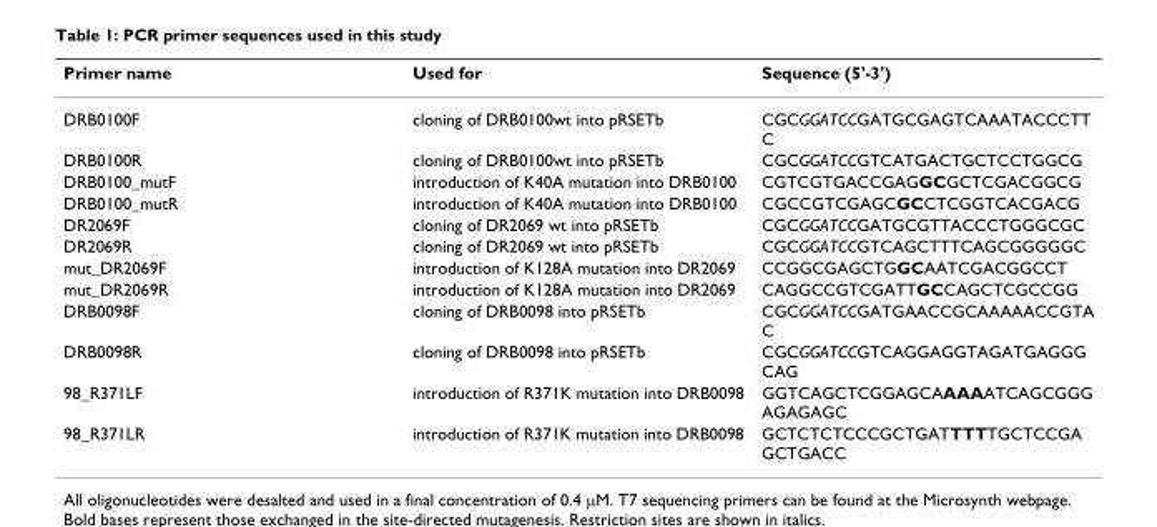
<table><thead><tr><td>Primer name</td><td>Used for</td><td>Sequence (5&#x27;-3&#x27;)</td></tr></thead><tbody><tr><td>DRB0100F</td><td>cloning of DRB0100wt into pRSETb</td><td>CGCGGATCCGATGCGAGTCAAATACCCTT C</td></tr><tr><td>DRB0100R</td><td>cloning of DRB0100wt into pRSETb</td><td>CGCGGATCCGTCATGACTGCTCCTGGCG</td></tr><tr><td>DRB0100_mutF</td><td>introduction of K40A mutation into DRB0100</td><td>CGTCGTGACCGAGGCGCTCGACGGCG</td></tr><tr><td>DRB0100_mutR</td><td>introduction of K40A mutation into DRB0100</td><td>CGCCGTCGAGCGCCTCGGTCACGACG</td></tr><tr><td>DR2069F</td><td>cloning of DR2069 wt into pRSETb</td><td>CGCGGATCCGATGCGTTACCCTGGGCGC</td></tr><tr><td>DR2069R</td><td>cloning of DR2069 wt into pRSETb</td><td>CGCGGATCCGTCAGCTTTCAGCGGGGGC</td></tr><tr><td>mut_DR2069F</td><td>introduction of K128A mutation into DR2069</td><td>CCGGCGAGCTGGCAATCGACGGCCT</td></tr><tr><td>mut_DR2069R</td><td>introduction of K128A mutation into DR2069</td><td>CAGGCCGTCGATTGCCAGCTCGCCGG</td></tr><tr><td>DRB0098F</td><td>cloning of DRB0098 into pRSETb</td><td>CGCGGATCCGATGAACCGCAAAAACCGTA C</td></tr><tr><td>DRB0098R</td><td>cloning of DRB0098 into pRSETb</td><td>CGCGGATCCGTCAGGAGGTAGATGAGGG CAG</td></tr><tr><td>98_R371LF</td><td>introduction of R371K mutation into DRB0098</td><td>GGTCAGCTCGGAGCAAAAATCAGCGGG AGAGAGC</td></tr><tr><td>98_R371LR</td><td>introduction of R371K mutation into DRB0098</td><td>GCTCTCTCCCGCTGATTTTTGCTCCGA GCTGACC</td></tr></tbody></table>